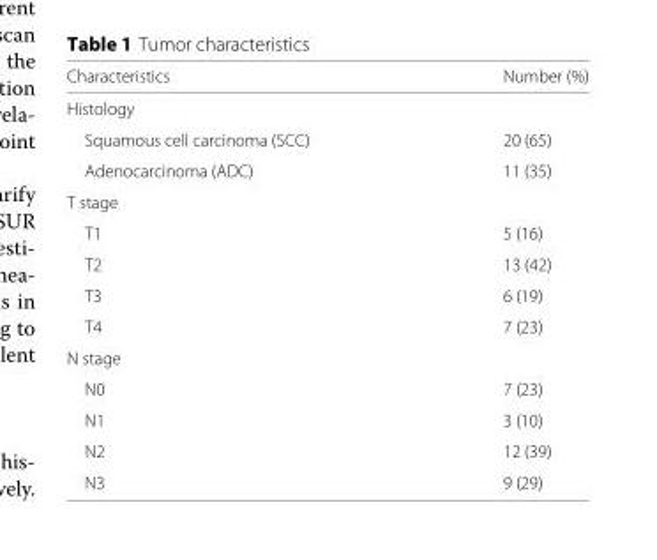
<table><thead><tr><td>Characteristics</td><td>Number (%)</td></tr></thead><tbody><tr><td colspan="2">Histology</td></tr><tr><td>Squamous cell carcinoma (SCC)</td><td>20 (65)</td></tr><tr><td>Adenocarcinoma (ADC)</td><td>11 (35)</td></tr><tr><td colspan="2">T stage</td></tr><tr><td>T1</td><td>5 (16)</td></tr><tr><td>T2</td><td>13 (42)</td></tr><tr><td>T3</td><td>6 (19)</td></tr><tr><td>T4</td><td>7 (23)</td></tr><tr><td colspan="2">N stage</td></tr><tr><td>N0</td><td>7 (23)</td></tr><tr><td>N1</td><td>3 (10)</td></tr><tr><td>N2</td><td>12 (39)</td></tr><tr><td>N3</td><td>9 (29)</td></tr></tbody></table>